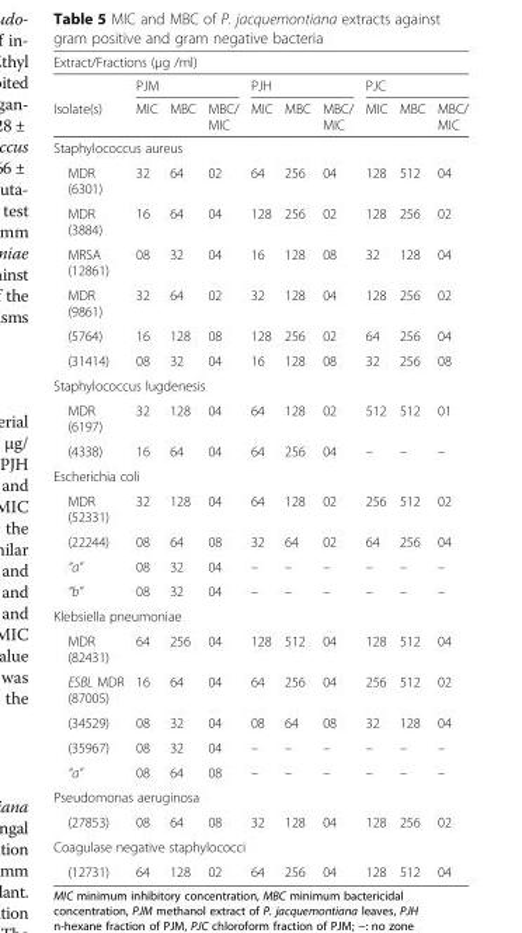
<table><thead><tr><td colspan="10">Extract/Fractions (μg /ml)</td></tr><tr><td rowspan="2">Isolate(s)</td><td colspan="3">PJM</td><td colspan="3">PJH</td><td colspan="3">PJC</td></tr><tr><td>MIC</td><td>MBC</td><td>MBC/ MIC</td><td>MIC</td><td>MBC</td><td>MBC/ MIC</td><td>MIC</td><td>MBC</td><td>MBC/ MIC</td></tr></thead><tbody><tr><td colspan="10">Staphylococcus aureus</td></tr><tr><td>MDR (6301)</td><td>32</td><td>64</td><td>02</td><td>64</td><td>256</td><td>04</td><td>128</td><td>512</td><td>04</td></tr><tr><td>MDR (3884)</td><td>16</td><td>64</td><td>04</td><td>128</td><td>256</td><td>02</td><td>128</td><td>256</td><td>02</td></tr><tr><td>MRSA (12861)</td><td>08</td><td>32</td><td>04</td><td>16</td><td>128</td><td>08</td><td>32</td><td>128</td><td>04</td></tr><tr><td>MDR (9861)</td><td>32</td><td>64</td><td>02</td><td>32</td><td>128</td><td>04</td><td>128</td><td>256</td><td>02</td></tr><tr><td>(5764)</td><td>16</td><td>128</td><td>08</td><td>128</td><td>256</td><td>02</td><td>64</td><td>256</td><td>04</td></tr><tr><td>(31414)</td><td>08</td><td>32</td><td>04</td><td>16</td><td>128</td><td>08</td><td>32</td><td>256</td><td>08</td></tr><tr><td colspan="10">Staphylococcus lugdenesis</td></tr><tr><td>MDR (6197)</td><td>32</td><td>128</td><td>04</td><td>64</td><td>128</td><td>02</td><td>512</td><td>512</td><td>01</td></tr><tr><td>(4338)</td><td>16</td><td>64</td><td>04</td><td>64</td><td>256</td><td>04</td><td>–</td><td>–</td><td>–</td></tr><tr><td colspan="10">Escherichia coli</td></tr><tr><td>MDR (52331)</td><td>32</td><td>128</td><td>04</td><td>64</td><td>128</td><td>02</td><td>256</td><td>512</td><td>02</td></tr><tr><td>(22244)</td><td>08</td><td>64</td><td>08</td><td>32</td><td>64</td><td>02</td><td>64</td><td>256</td><td>04</td></tr><tr><td>“a”</td><td>08</td><td>32</td><td>04</td><td>–</td><td>–</td><td>–</td><td>–</td><td>–</td><td>–</td></tr><tr><td>“b”</td><td>08</td><td>32</td><td>04</td><td>–</td><td>–</td><td>–</td><td>–</td><td>–</td><td>–</td></tr><tr><td colspan="10">Klebsiella pneumoniae</td></tr><tr><td>MDR (82431)</td><td>64</td><td>256</td><td>04</td><td>128</td><td>512</td><td>04</td><td>128</td><td>512</td><td>04</td></tr><tr><td>ESBL MDR (87005)</td><td>16</td><td>64</td><td>04</td><td>64</td><td>256</td><td>04</td><td>256</td><td>512</td><td>02</td></tr><tr><td>(34529)</td><td>08</td><td>32</td><td>04</td><td>08</td><td>64</td><td>08</td><td>32</td><td>128</td><td>04</td></tr><tr><td>(35967)</td><td>08</td><td>32</td><td>04</td><td>–</td><td>–</td><td>–</td><td>–</td><td>–</td><td>–</td></tr><tr><td>“a”</td><td>08</td><td>64</td><td>08</td><td>–</td><td>–</td><td>–</td><td>–</td><td>–</td><td>–</td></tr><tr><td colspan="10">Pseudomonas aeruginosa</td></tr><tr><td>(27853)</td><td>08</td><td>64</td><td>08</td><td>32</td><td>128</td><td>04</td><td>128</td><td>256</td><td>02</td></tr><tr><td colspan="10">Coagulase negative staphylococci</td></tr><tr><td>(12731)</td><td>64</td><td>128</td><td>02</td><td>64</td><td>256</td><td>04</td><td>128</td><td>512</td><td>04</td></tr></tbody></table>